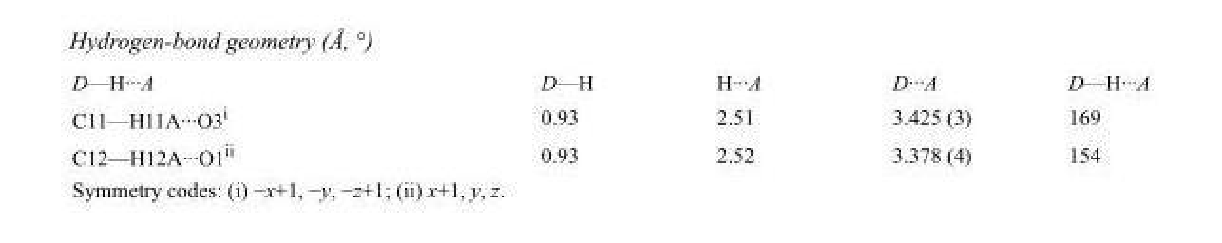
<table><tbody><tr><td>D—H···A</td><td>D—H</td><td>H···A</td><td>D···A</td><td>D—H···A</td></tr><tr><td>C11—H11A···O3<sup>i</sup></td><td>0.93</td><td>2.51</td><td>3.425 (3)</td><td>169</td></tr><tr><td>C12—H12A···O1<sup>ii</sup></td><td>0.93</td><td>2.52</td><td>3.378 (4)</td><td>154</td></tr></tbody></table>